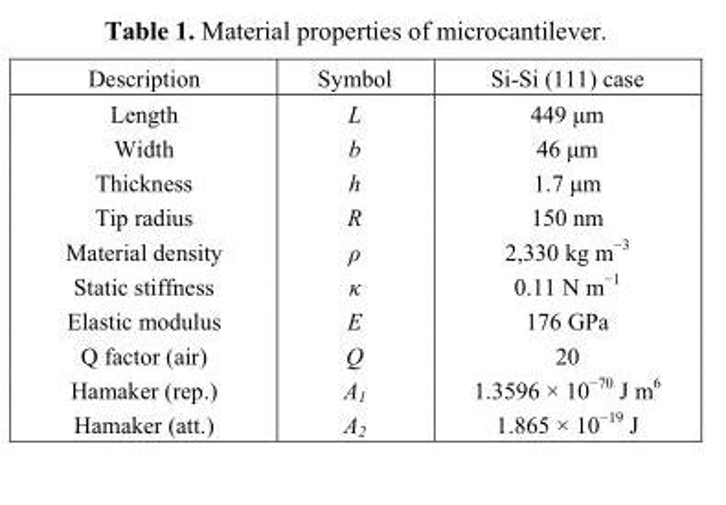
<table><thead><tr><td>Description</td><td>Symbol</td><td>Si-Si (111) case</td></tr></thead><tbody><tr><td>Length</td><td>L</td><td>449 μm</td></tr><tr><td>Width</td><td>b</td><td>46 μm</td></tr><tr><td>Thickness</td><td>h</td><td>1.7 μm</td></tr><tr><td>Tip radius</td><td>R</td><td>150 nm</td></tr><tr><td>Material density</td><td>ρ</td><td>2,330 kg m<sup>−3</sup></td></tr><tr><td>Static stiffness</td><td>κ</td><td>0.11 N m<sup>−1</sup></td></tr><tr><td>Elastic modulus</td><td>E</td><td>176 GPa</td></tr><tr><td>Q factor (air)</td><td>Q</td><td>20</td></tr><tr><td>Hamaker (rep.)</td><td>A<sub>1</sub></td><td>1.3596 × 10<sup>−70</sup> J m<sup>6</sup></td></tr><tr><td>Hamaker (att.)</td><td>A<sub>2</sub></td><td>1.865 × 10<sup>−19</sup> J</td></tr></tbody></table>